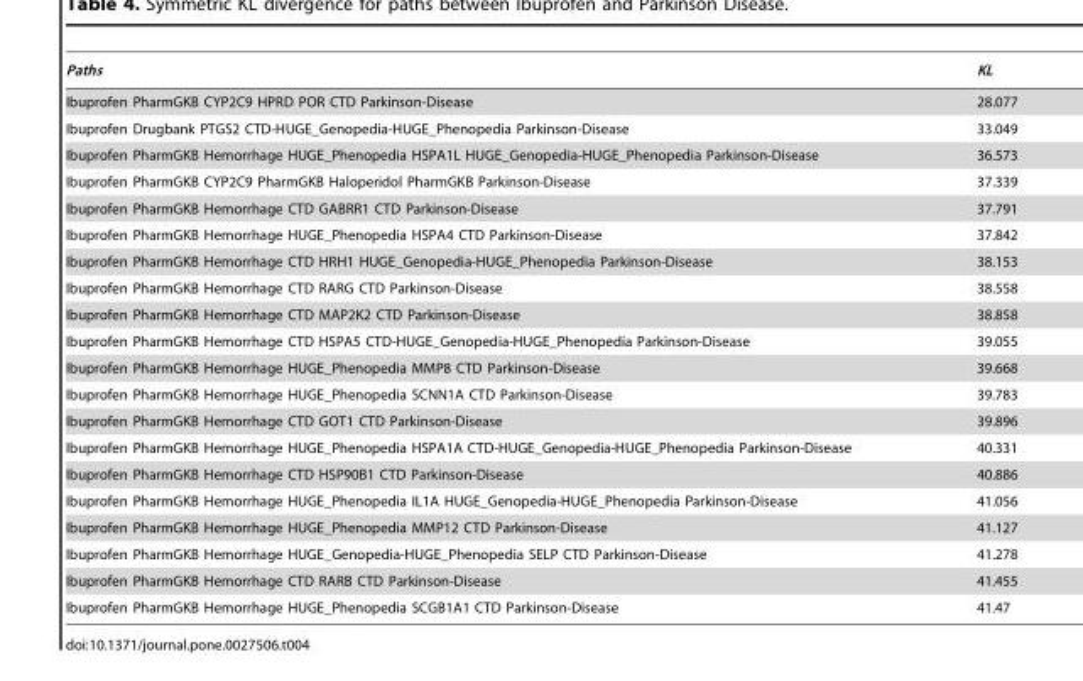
<table><thead><tr><td>Paths</td><td>KL</td></tr></thead><tbody><tr><td>Ibuprofen PharmGKB CYP2C9 HPRD POR CTD Parkinson-Disease</td><td>28.077</td></tr><tr><td>Ibuprofen Drugbank PTGS2 CTD-HUGE_Genopedia-HUGE_Phenopedia Parkinson-Disease</td><td>33.049</td></tr><tr><td>Ibuprofen PharmGKB Hemorrhage HUGE_Phenopedia HSPA1L HUGE_Genopedia-HUGE_Phenopedia Parkinson-Disease</td><td>36.573</td></tr><tr><td>Ibuprofen PharmGKB CYP2C9 PharmGKB Haloperidol PharmGKB Parkinson-Disease</td><td>37.339</td></tr><tr><td>Ibuprofen PharmGKB Hemorrhage CTD GABRR1 CTD Parkinson-Disease</td><td>37.791</td></tr><tr><td>Ibuprofen PharmGKB Hemorrhage HUGE_Phenopedia HSPA4 CTD Parkinson-Disease</td><td>37.842</td></tr><tr><td>Ibuprofen PharmGKB Hemorrhage CTD HRH1 HUGE_Genopedia-HUGE_Phenopedia Parkinson-Disease</td><td>38.153</td></tr><tr><td>Ibuprofen PharmGKB Hemorrhage CTD RARG CTD Parkinson-Disease</td><td>38.558</td></tr><tr><td>Ibuprofen PharmGKB Hemorrhage CTD MAP2K2 CTD Parkinson-Disease</td><td>38.858</td></tr><tr><td>Ibuprofen PharmGKB Hemorrhage CTD HSPA5 CTD-HUGE_Genopedia-HUGE_Phenopedia Parkinson-Disease</td><td>39.055</td></tr><tr><td>Ibuprofen PharmGKB Hemorrhage HUGE_Phenopedia MMP8 CTD Parkinson-Disease</td><td>39.668</td></tr><tr><td>Ibuprofen PharmGKB Hemorrhage HUGE_Phenopedia SCNN1A CTD Parkinson-Disease</td><td>39.783</td></tr><tr><td>Ibuprofen PharmGKB Hemorrhage CTD GOT1 CTD Parkinson-Disease</td><td>39.896</td></tr><tr><td>Ibuprofen PharmGKB Hemorrhage HUGE_Phenopedia HSPA1A CTD-HUGE_Genopedia-HUGE_Phenopedia Parkinson-Disease</td><td>40.331</td></tr><tr><td>Ibuprofen PharmGKB Hemorrhage CTD HSP90B1 CTD Parkinson-Disease</td><td>40.886</td></tr><tr><td>Ibuprofen PharmGKB Hemorrhage HUGE_Phenopedia IL1A HUGE_Genopedia-HUGE_Phenopedia Parkinson-Disease</td><td>41.056</td></tr><tr><td>Ibuprofen PharmGKB Hemorrhage HUGE_Phenopedia MMP12 CTD Parkinson-Disease</td><td>41.127</td></tr><tr><td>Ibuprofen PharmGKB Hemorrhage HUGE_Genopedia-HUGE_Phenopedia SELP CTD Parkinson-Disease</td><td>41.278</td></tr><tr><td>Ibuprofen PharmGKB Hemorrhage CTD RARB CTD Parkinson-Disease</td><td>41.455</td></tr><tr><td>Ibuprofen PharmGKB Hemorrhage HUGE_Phenopedia SCGB1A1 CTD Parkinson-Disease</td><td>41.47</td></tr></tbody></table>